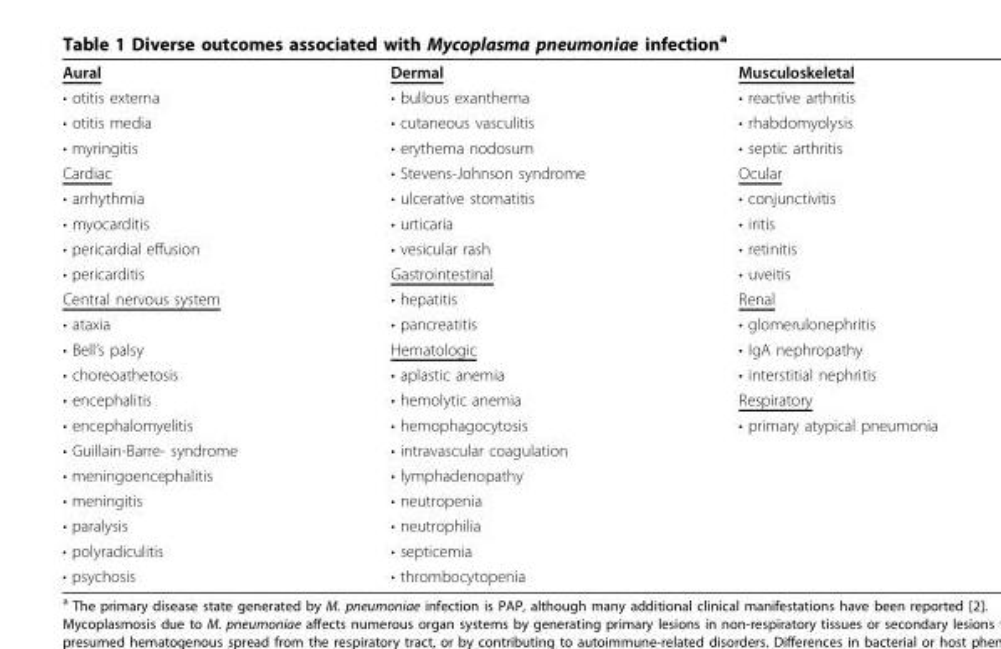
<table><tbody><tr><td>Aural</td><td>Dermal</td><td>Musculoskeletal</td></tr><tr><td>• otitis externa</td><td>• bullous exanthema</td><td>• reactive arthritis</td></tr><tr><td>• otitis media</td><td>• cutaneous vasculitis</td><td>• rhabdomyolysis</td></tr><tr><td>• myringitis</td><td>• erythema nodosum</td><td>• septic arthritis</td></tr><tr><td>Cardiac</td><td>• Stevens-Johnson syndrome</td><td>Ocular</td></tr><tr><td>• arrhythmia</td><td>• ulcerative stomatitis</td><td>• conjunctivitis</td></tr><tr><td>• myocarditis</td><td>• urticaria</td><td>• iritis</td></tr><tr><td>• pericardial effusion</td><td>• vesicular rash</td><td>• retinitis</td></tr><tr><td>• pericarditis</td><td>Gastrointestinal</td><td>• uveitis</td></tr><tr><td>Central nervous system</td><td>• hepatitis</td><td>Renal</td></tr><tr><td>• ataxia</td><td>• pancreatitis</td><td>• glomerulonephritis</td></tr><tr><td>• Bell’s palsy</td><td>Hematologic</td><td>• IgA nephropathy</td></tr><tr><td>• choreoathetosis</td><td>• aplastic anemia</td><td>• interstitial nephritis</td></tr><tr><td>• encephalitis</td><td>• hemolytic anemia</td><td>Respiratory</td></tr><tr><td>• encephalomyelitis</td><td>• hemophagocytosis</td><td>• primary atypical pneumonia</td></tr><tr><td>• Guillain-Barre- syndrome</td><td>• intravascular coagulation</td><td></td></tr><tr><td>• meningoencephalitis</td><td>• lymphadenopathy</td><td></td></tr><tr><td>• meningitis</td><td>• neutropenia</td><td></td></tr><tr><td>• paralysis</td><td>• neutrophilia</td><td></td></tr><tr><td>• polyradiculitis</td><td>• septicemia</td><td></td></tr><tr><td>• psychosis</td><td>• thrombocytopenia</td><td></td></tr></tbody></table>